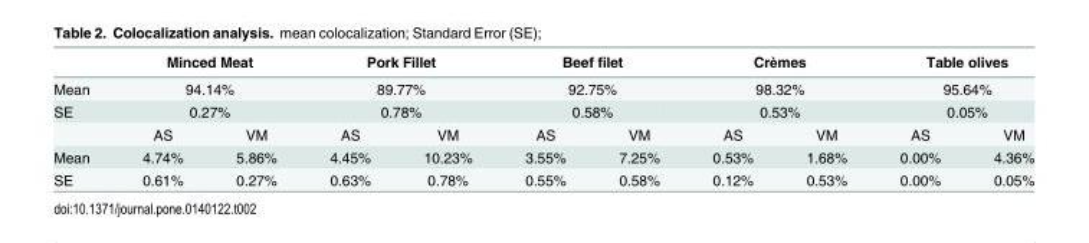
<table><thead><tr><td rowspan="4">Mean SE</td><td rowspan="3" colspan="2">Minced Meat 94.14% 0.27%</td><td rowspan="3" colspan="2">Pork Fillet 89.77% 0.78%</td><td rowspan="3" colspan="2">Beef filet 92.75% 0.58%</td><td rowspan="3" colspan="2">Crèmes 98.32% 0.53%</td><td rowspan="3" colspan="2">Table olives 95.64% 0.05%</td></tr><tr></tr><tr></tr><tr><td>AS</td><td>VM</td><td>AS</td><td>VM</td><td>AS</td><td>VM</td><td>AS</td><td>VM</td><td>AS</td><td>VM</td></tr></thead><tbody><tr><td>Mean</td><td>4.74%</td><td>5.86%</td><td>4.45%</td><td>10.23%</td><td>3.55%</td><td>7.25%</td><td>0.53%</td><td>1.68%</td><td>0.00%</td><td>4.36%</td></tr><tr><td>SE</td><td>0.61%</td><td>0.27%</td><td>0.63%</td><td>0.78%</td><td>0.55%</td><td>0.58%</td><td>0.12%</td><td>0.53%</td><td>0.00%</td><td>0.05%</td></tr></tbody></table>